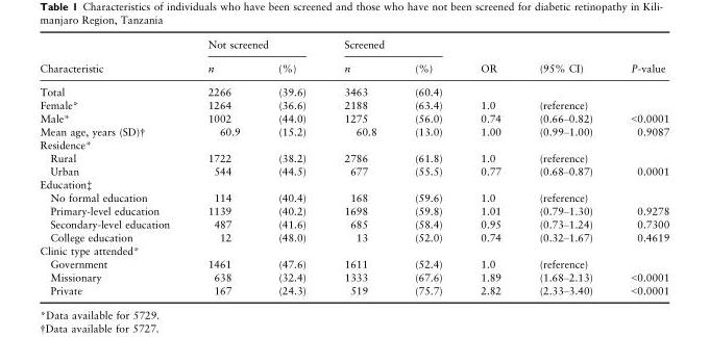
<table><thead><tr><td rowspan="2">Characteristic</td><td colspan="2">Not screened</td><td colspan="2">Screened</td><td rowspan="2">OR</td><td rowspan="2">(95% CI)</td><td rowspan="2">P-value</td></tr><tr><td>n</td><td>(%)</td><td>n</td><td>(%)</td></tr></thead><tbody><tr><td>Total</td><td>2266</td><td>(39.6)</td><td>3463</td><td>(60.4)</td><td></td><td></td><td></td></tr><tr><td>Female*</td><td>1264</td><td>(36.6)</td><td>2188</td><td>(63.4)</td><td>1.0</td><td>(reference)</td><td></td></tr><tr><td>Male*</td><td>1002</td><td>(44.0)</td><td>1275</td><td>(56.0)</td><td>0.74</td><td>(0.66–0.82)</td><td>&lt;0.0001</td></tr><tr><td>Mean age, years (SD)†</td><td>60.9</td><td>(15.2)</td><td>60.8</td><td>(13.0)</td><td>1.00</td><td>(0.99–1.00)</td><td>0.9087</td></tr><tr><td colspan="8">Residence*</td></tr><tr><td>Rural</td><td>1722</td><td>(38.2)</td><td>2786</td><td>(61.8)</td><td>1.0</td><td>(reference)</td><td></td></tr><tr><td>Urban</td><td>544</td><td>(44.5)</td><td>677</td><td>(55.5)</td><td>0.77</td><td>(0.68–0.87)</td><td>0.0001</td></tr><tr><td colspan="8">Education‡</td></tr><tr><td>No formal education</td><td>114</td><td>(40.4)</td><td>168</td><td>(59.6)</td><td>1.0</td><td>(reference)</td><td></td></tr><tr><td>Primary-level education</td><td>1139</td><td>(40.2)</td><td>1698</td><td>(59.8)</td><td>1.01</td><td>(0.79–1.30)</td><td>0.9278</td></tr><tr><td>Secondary-level education</td><td>487</td><td>(41.6)</td><td>685</td><td>(58.4)</td><td>0.95</td><td>(0.73–1.24)</td><td>0.7300</td></tr><tr><td>College education</td><td>12</td><td>(48.0)</td><td>13</td><td>(52.0)</td><td>0.74</td><td>(0.32–1.67)</td><td>0.4619</td></tr><tr><td colspan="8">Clinic type attended*</td></tr><tr><td>Government</td><td>1461</td><td>(47.6)</td><td>1611</td><td>(52.4)</td><td>1.0</td><td>(reference)</td><td></td></tr><tr><td>Missionary</td><td>638</td><td>(32.4)</td><td>1333</td><td>(67.6)</td><td>1.89</td><td>(1.68–2.13)</td><td>&lt;0.0001</td></tr><tr><td>Private</td><td>167</td><td>(24.3)</td><td>519</td><td>(75.7)</td><td>2.82</td><td>(2.33–3.40)</td><td>&lt;0.0001</td></tr></tbody></table>